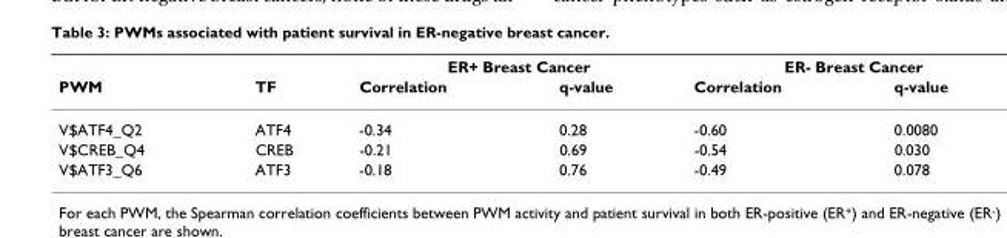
<table><thead><tr><td rowspan="2">PWM</td><td rowspan="2">TF</td><td colspan="2">ER+ Breast Cancer</td><td colspan="2">ER- Breast Cancer</td></tr><tr><td>Correlation</td><td>q-value</td><td>Correlation</td><td>q-value</td></tr></thead><tbody><tr><td>V$ATF4_Q2</td><td>ATF4</td><td>-0.34</td><td>0.28</td><td>-0.60</td><td>0.0080</td></tr><tr><td>V$CREB_Q4</td><td>CREB</td><td>-0.21</td><td>0.69</td><td>-0.54</td><td>0.030</td></tr><tr><td>V$ATF3_Q6</td><td>ATF3</td><td>-0.18</td><td>0.76</td><td>-0.49</td><td>0.078</td></tr></tbody></table>